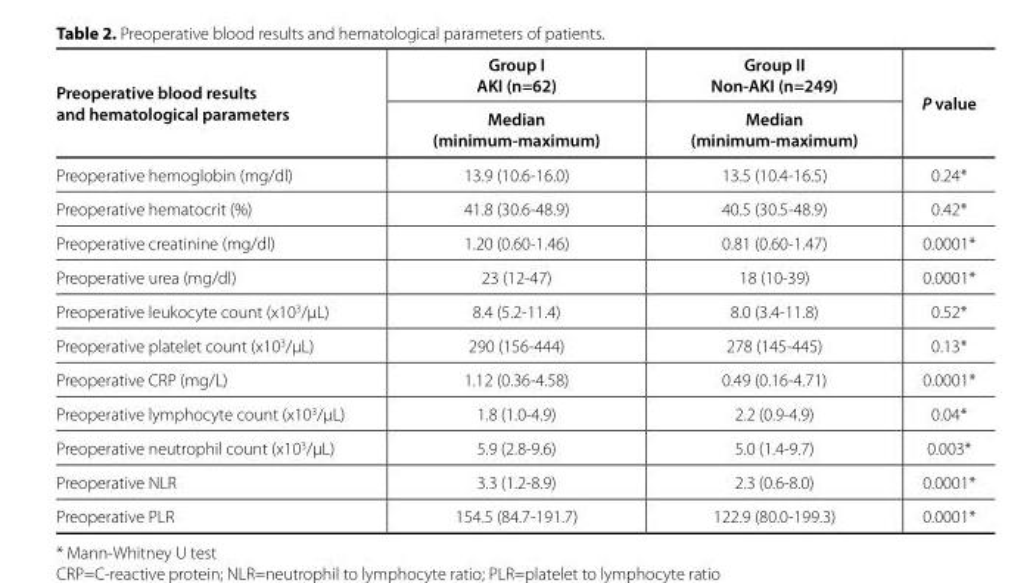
<table><thead><tr><td rowspan="2">Preoperative blood results and hematological parameters</td><td rowspan="2">Group I AKI (n=62) Median (minimum-maximum)</td><td rowspan="2">Group II Non-AKI (n=249) Median (minimum-maximum)</td><td rowspan="2">P value</td></tr><tr></tr></thead><tbody><tr><td>Preoperative hemoglobin (mg/dl)</td><td>13.9 (10.6-16.0)</td><td>13.5 (10.4-16.5)</td><td>0.24*</td></tr><tr><td>Preoperative hematocrit (%)</td><td>41.8 (30.6-48.9)</td><td>40.5 (30.5-48.9)</td><td>0.42*</td></tr><tr><td>Preoperative creatinine (mg/dl)</td><td>1.20 (0.60-1.46)</td><td>0.81 (0.60-1.47)</td><td>0.0001*</td></tr><tr><td>Preoperative urea (mg/dl)</td><td>23 (12-47)</td><td>18 (10-39)</td><td>0.0001*</td></tr><tr><td>Preoperative leukocyte count (x10<sup>3</sup>/µL)</td><td>8.4 (5.2-11.4)</td><td>8.0 (3.4-11.8)</td><td>0.52*</td></tr><tr><td>Preoperative platelet count (x10<sup>3</sup>/µL)</td><td>290 (156-444)</td><td>278 (145-445)</td><td>0.13*</td></tr><tr><td>Preoperative CRP (mg/L)</td><td>1.12 (0.36-4.58)</td><td>0.49 (0.16-4.71)</td><td>0.0001*</td></tr><tr><td>Preoperative lymphocyte count (x10<sup>3</sup>/µL)</td><td>1.8 (1.0-4.9)</td><td>2.2 (0.9-4.9)</td><td>0.04*</td></tr><tr><td>Preoperative neutrophil count (x10<sup>3</sup>/µL)</td><td>5.9 (2.8-9.6)</td><td>5.0 (1.4-9.7)</td><td>0.003*</td></tr><tr><td>Preoperative NLR</td><td>3.3 (1.2-8.9)</td><td>2.3 (0.6-8.0)</td><td>0.0001*</td></tr><tr><td>Preoperative PLR</td><td>154.5 (84.7-191.7)</td><td>122.9 (80.0-199.3)</td><td>0.0001*</td></tr></tbody></table>